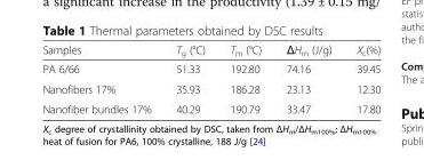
<table><thead><tr><td>Samples</td><td>T<sub>g</sub> (°C)</td><td>T<sub>m</sub> (°C)</td><td>ΔH<sub>m</sub> (J/g)</td><td>X<sub>c</sub>(%)</td></tr></thead><tbody><tr><td>PA 6/66</td><td>51.33</td><td>192.80</td><td>74.16</td><td>39.45</td></tr><tr><td>Nanofibers 17%</td><td>35.93</td><td>186.28</td><td>23.13</td><td>12.30</td></tr><tr><td>Nanofiber bundles 17%</td><td>40.29</td><td>190.79</td><td>33.47</td><td>17.80</td></tr></tbody></table>